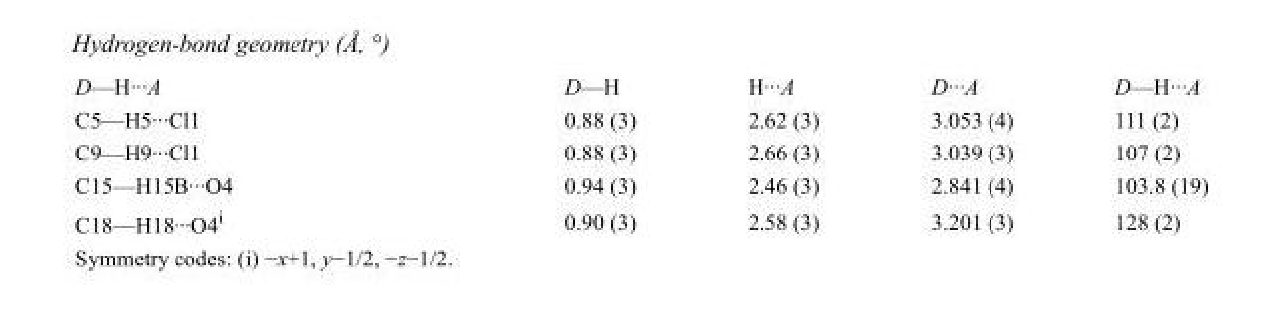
<table><tbody><tr><td>D—H···A</td><td>D—H</td><td>H···A</td><td>D···A</td><td>D—H···A</td></tr><tr><td>C5—H5···Cl1</td><td>0.88 (3)</td><td>2.62 (3)</td><td>3.053 (4)</td><td>111 (2)</td></tr><tr><td>C9—H9···Cl1</td><td>0.88 (3)</td><td>2.66 (3)</td><td>3.039 (3)</td><td>107 (2)</td></tr><tr><td>C15—H15B···O4</td><td>0.94 (3)</td><td>2.46 (3)</td><td>2.841 (4)</td><td>103.8 (19)</td></tr><tr><td>C18—H18···O4<sup>i</sup></td><td>0.90 (3)</td><td>2.58 (3)</td><td>3.201 (3)</td><td>128 (2)</td></tr></tbody></table>